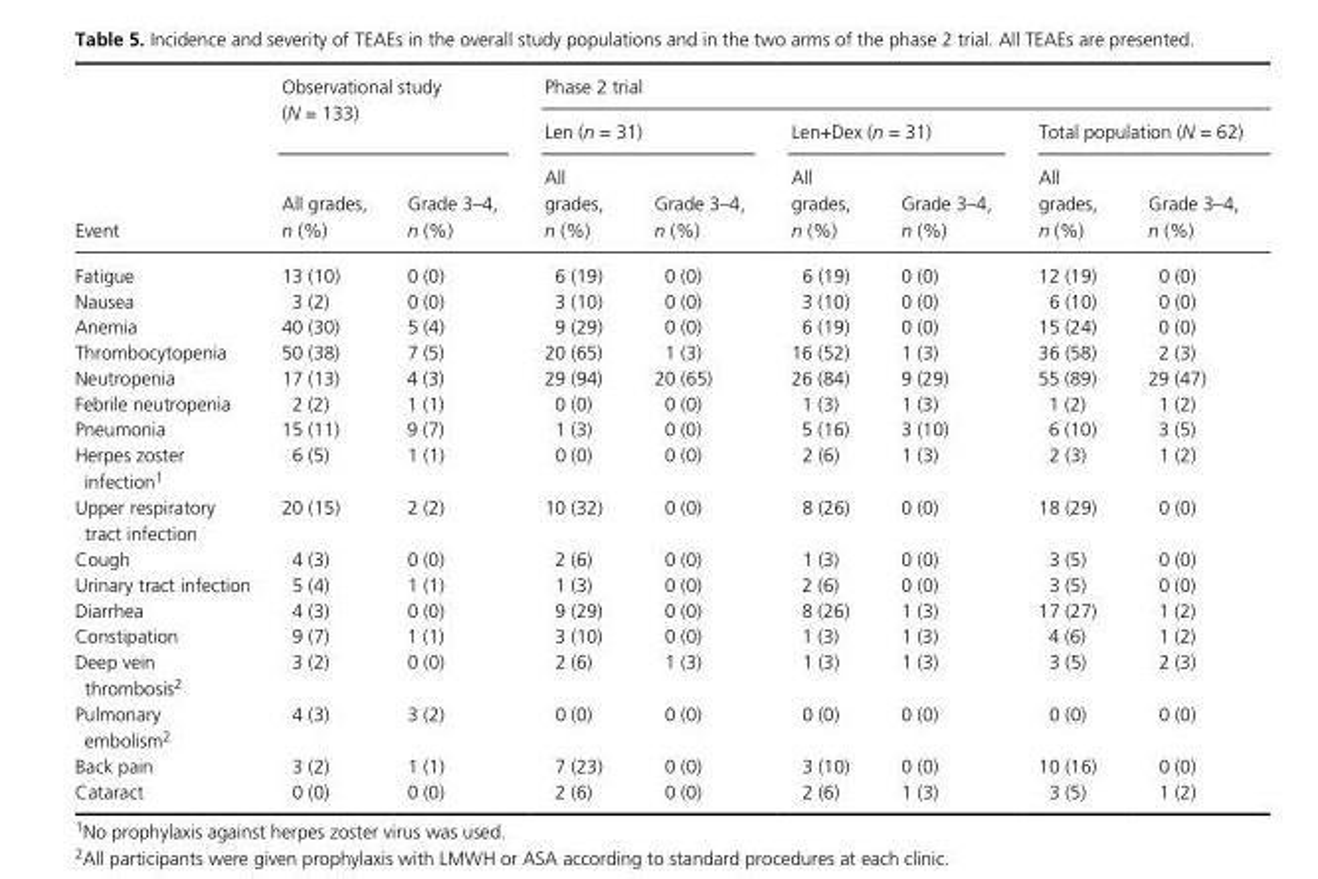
<table><thead><tr><td rowspan="3">Event</td><td rowspan="2" colspan="2">Observational study (N = 133)</td><td colspan="6">Phase 2 trial</td></tr><tr><td colspan="2">Len (n = 31)</td><td colspan="2">Len+Dex (n = 31)</td><td colspan="2">Total population (N = 62)</td></tr><tr><td>All grades, n (%)</td><td>Grade 3–4, n (%)</td><td>All grades, n (%)</td><td>Grade 3–4, n (%)</td><td>All grades, n (%)</td><td>Grade 3–4, n (%)</td><td>All grades, n (%)</td><td>Grade 3–4, n (%)</td></tr></thead><tbody><tr><td>Fatigue</td><td>13 (10)</td><td>0 (0)</td><td>6 (19)</td><td>0 (0)</td><td>6 (19)</td><td>0 (0)</td><td>12 (19)</td><td>0 (0)</td></tr><tr><td>Nausea</td><td>3 (2)</td><td>0 (0)</td><td>3 (10)</td><td>0 (0)</td><td>3 (10)</td><td>0 (0)</td><td>6 (10)</td><td>0 (0)</td></tr><tr><td>Anemia</td><td>40 (30)</td><td>5 (4)</td><td>9 (29)</td><td>0 (0)</td><td>6 (19)</td><td>0 (0)</td><td>15 (24)</td><td>0 (0)</td></tr><tr><td>Thrombocytopenia</td><td>50 (38)</td><td>7 (5)</td><td>20 (65)</td><td>1 (3)</td><td>16 (52)</td><td>1 (3)</td><td>36 (58)</td><td>2 (3)</td></tr><tr><td>Neutropenia</td><td>17 (13)</td><td>4 (3)</td><td>29 (94)</td><td>20 (65)</td><td>26 (84)</td><td>9 (29)</td><td>55 (89)</td><td>29 (47)</td></tr><tr><td>Febrile neutropenia</td><td>2 (2)</td><td>1 (1)</td><td>0 (0)</td><td>0 (0)</td><td>1 (3)</td><td>1 (3)</td><td>1 (2)</td><td>1 (2)</td></tr><tr><td>Pneumonia</td><td>15 (11)</td><td>9 (7)</td><td>1 (3)</td><td>0 (0)</td><td>5 (16)</td><td>3 (10)</td><td>6 (10)</td><td>3 (5)</td></tr><tr><td>Herpes zoster infection1</td><td>6 (5)</td><td>1 (1)</td><td>0 (0)</td><td>0 (0)</td><td>2 (6)</td><td>1 (3)</td><td>2 (3)</td><td>1 (2)</td></tr><tr><td>Upper respiratory tract infection</td><td>20 (15)</td><td>2 (2)</td><td>10 (32)</td><td>0 (0)</td><td>8 (26)</td><td>0 (0)</td><td>18 (29)</td><td>0 (0)</td></tr><tr><td>Cough</td><td>4 (3)</td><td>0 (0)</td><td>2 (6)</td><td>0 (0)</td><td>1 (3)</td><td>0 (0)</td><td>3 (5)</td><td>0 (0)</td></tr><tr><td>Urinary tract infection</td><td>5 (4)</td><td>1 (1)</td><td>1 (3)</td><td>0 (0)</td><td>2 (6)</td><td>0 (0)</td><td>3 (5)</td><td>0 (0)</td></tr><tr><td>Diarrhea</td><td>4 (3)</td><td>0 (0)</td><td>9 (29)</td><td>0 (0)</td><td>8 (26)</td><td>1 (3)</td><td>17 (27)</td><td>1 (2)</td></tr><tr><td>Constipation</td><td>9 (7)</td><td>1 (1)</td><td>3 (10)</td><td>0 (0)</td><td>1 (3)</td><td>1 (3)</td><td>4 (6)</td><td>1 (2)</td></tr><tr><td>Deep vein thrombosis2</td><td>3 (2)</td><td>0 (0)</td><td>2 (6)</td><td>1 (3)</td><td>1 (3)</td><td>1 (3)</td><td>3 (5)</td><td>2 (3)</td></tr><tr><td>Pulmonary embolism2</td><td>4 (3)</td><td>3 (2)</td><td>0 (0)</td><td>0 (0)</td><td>0 (0)</td><td>0 (0)</td><td>0 (0)</td><td>0 (0)</td></tr><tr><td>Back pain</td><td>3 (2)</td><td>1 (1)</td><td>7 (23)</td><td>0 (0)</td><td>3 (10)</td><td>0 (0)</td><td>10 (16)</td><td>0 (0)</td></tr><tr><td>Cataract</td><td>0 (0)</td><td>0 (0)</td><td>2 (6)</td><td>0 (0)</td><td>2 (6)</td><td>1 (3)</td><td>3 (5)</td><td>1 (2)</td></tr></tbody></table>